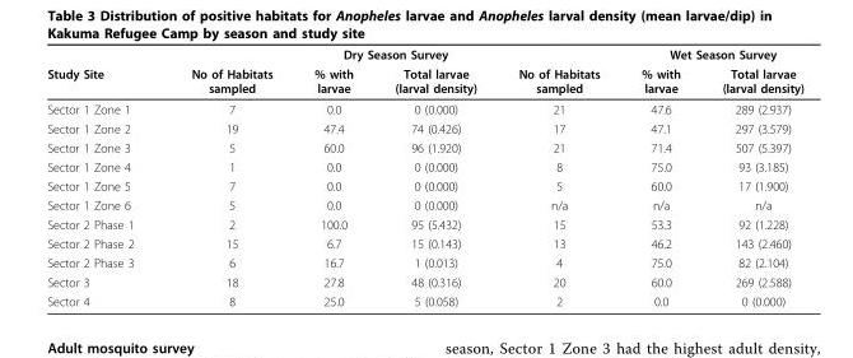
<table><thead><tr><td rowspan="2">Study Site</td><td rowspan="2">No of Habitats sampled</td><td colspan="2">Dry Season Survey</td><td rowspan="2">No of Habitats sampled</td><td colspan="2">Wet Season Survey</td></tr><tr><td>% with larvae</td><td>Total larvae (larval density)</td><td>% with larvae</td><td>Total larvae (larval density)</td></tr></thead><tbody><tr><td>Sector 1 Zone 1</td><td>7</td><td>0.0</td><td>0 (0.000)</td><td>21</td><td>47.6</td><td>289 (2.937)</td></tr><tr><td>Sector 1 Zone 2</td><td>19</td><td>47.4</td><td>74 (0.426)</td><td>17</td><td>47.1</td><td>297 (3.579)</td></tr><tr><td>Sector 1 Zone 3</td><td>5</td><td>60.0</td><td>96 (1.920)</td><td>21</td><td>71.4</td><td>507 (5.397)</td></tr><tr><td>Sector 1 Zone 4</td><td>1</td><td>0.0</td><td>0 (0.000)</td><td>8</td><td>75.0</td><td>93 (3.185)</td></tr><tr><td>Sector 1 Zone 5</td><td>7</td><td>0.0</td><td>0 (0.000)</td><td>5</td><td>60.0</td><td>17 (1.900)</td></tr><tr><td>Sector 1 Zone 6</td><td>5</td><td>0.0</td><td>0 (0.000)</td><td>n/a</td><td>n/a</td><td>n/a</td></tr><tr><td>Sector 2 Phase 1</td><td>2</td><td>100.0</td><td>95 (5.432)</td><td>15</td><td>53.3</td><td>92 (1.228)</td></tr><tr><td>Sector 2 Phase 2</td><td>15</td><td>6.7</td><td>15 (0.143)</td><td>13</td><td>46.2</td><td>143 (2.460)</td></tr><tr><td>Sector 2 Phase 3</td><td>6</td><td>16.7</td><td>1 (0.013)</td><td>4</td><td>75.0</td><td>82 (2.104)</td></tr><tr><td>Sector 3</td><td>18</td><td>27.8</td><td>48 (0.316)</td><td>20</td><td>60.0</td><td>269 (2.588)</td></tr><tr><td>Sector 4</td><td>8</td><td>25.0</td><td>5 (0.058)</td><td>2</td><td>0.0</td><td>0 (0.000)</td></tr></tbody></table>